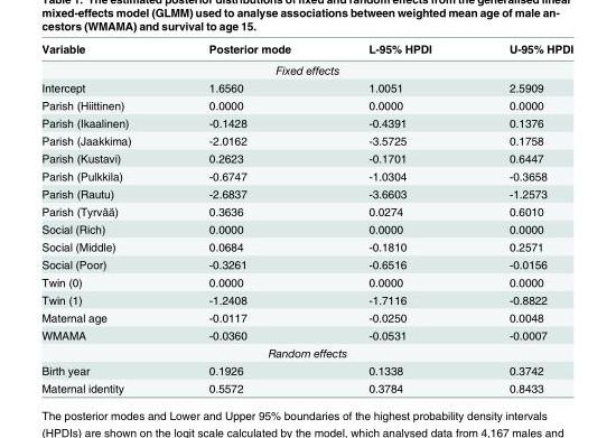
<table><thead><tr><td>Variable</td><td>Posterior mode</td><td>L-95% HPDI</td><td>U-95% HPDI</td></tr></thead><tbody><tr><td colspan="4">Fixed effects</td></tr><tr><td>Intercept</td><td>1.6560</td><td>1.0051</td><td>2.5909</td></tr><tr><td>Parish (Hiittinen)</td><td>0.0000</td><td>0.0000</td><td>0.0000</td></tr><tr><td>Parish (Ikaalinen)</td><td>-0.1428</td><td>-0.4391</td><td>0.1376</td></tr><tr><td>Parish (Jaakkima)</td><td>-2.0162</td><td>-3.5725</td><td>0.1758</td></tr><tr><td>Parish (Kustavi)</td><td>0.2623</td><td>-0.1701</td><td>0.6447</td></tr><tr><td>Parish (Pulkkila)</td><td>-0.6747</td><td>-1.0304</td><td>-0.3658</td></tr><tr><td>Parish (Rautu)</td><td>-2.6837</td><td>-3.6603</td><td>-1.2573</td></tr><tr><td>Parish (Tyrvää)</td><td>0.3636</td><td>0.0274</td><td>0.6010</td></tr><tr><td>Social (Rich)</td><td>0.0000</td><td>0.0000</td><td>0.0000</td></tr><tr><td>Social (Middle)</td><td>0.0684</td><td>-0.1810</td><td>0.2571</td></tr><tr><td>Social (Poor)</td><td>-0.3261</td><td>-0.6516</td><td>-0.0156</td></tr><tr><td>Twin (0)</td><td>0.0000</td><td>0.0000</td><td>0.0000</td></tr><tr><td>Twin (1)</td><td>-1.2408</td><td>-1.7116</td><td>-0.8822</td></tr><tr><td>Maternal age</td><td>-0.0117</td><td>-0.0250</td><td>0.0048</td></tr><tr><td>WMAMA</td><td>-0.0360</td><td>-0.0531</td><td>-0.0007</td></tr><tr><td colspan="4">Random effects</td></tr><tr><td>Birth year</td><td>0.1926</td><td>0.1338</td><td>0.3742</td></tr><tr><td>Maternal identity</td><td>0.5572</td><td>0.3784</td><td>0.8433</td></tr></tbody></table>